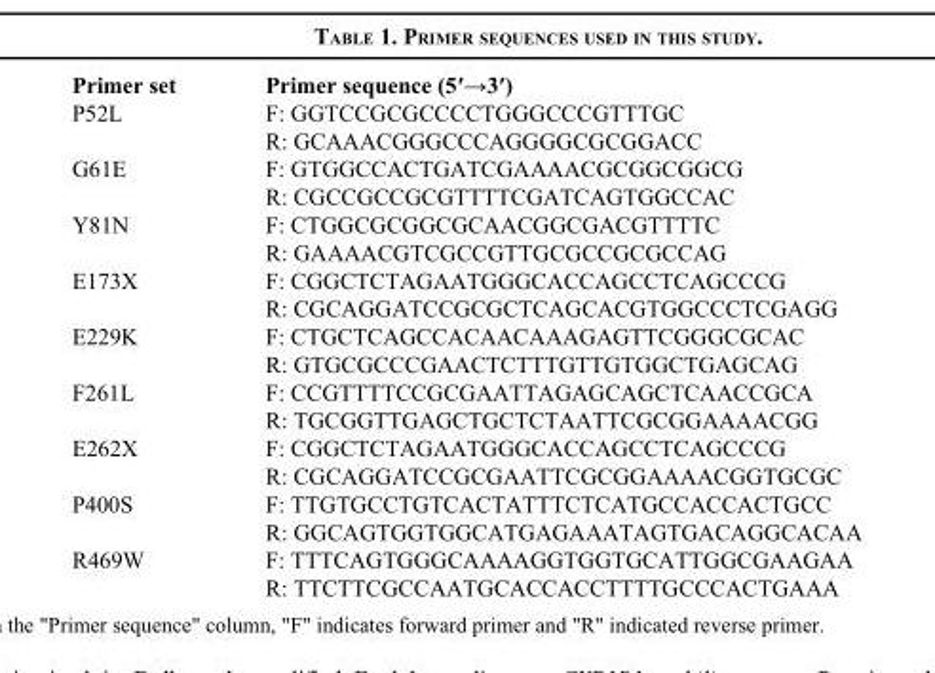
<table><thead><tr><td>Primer set</td><td>Primer sequence (5′→3′)</td></tr></thead><tbody><tr><td rowspan="2">P52L</td><td>F: GGTCCGCGCCCCTGGGCCCGTTTGC</td></tr><tr><td>R: GCAAACGGGCCCAGGGGCGCGGACC</td></tr><tr><td rowspan="2">G61E</td><td>F: GTGGCCACTGATCGAAAACGCGGCGGCG</td></tr><tr><td>R: CGCCGCCGCGTTTTCGATCAGTGGCCAC</td></tr><tr><td rowspan="2">Y81N</td><td>F: CTGGCGCGGCGCAACGGCGACGTTTTC</td></tr><tr><td>R: GAAAACGTCGCCGTTGCGCCGCGCCAG</td></tr><tr><td rowspan="2">E173X</td><td>F: CGGCTCTAGAATGGGCACCAGCCTCAGCCCG</td></tr><tr><td>R: CGCAGGATCCGCGCTCAGCACGTGGCCCTCGAGG</td></tr><tr><td rowspan="2">E229K</td><td>F: CTGCTCAGCCACAACAAAGAGTTCGGGCGCAC</td></tr><tr><td>R: GTGCGCCCGAACTCTTTGTTGTGGCTGAGCAG</td></tr><tr><td rowspan="2">F261L</td><td>F: CCGTTTTCCGCGAATTAGAGCAGCTCAACCGCA</td></tr><tr><td>R: TGCGGTTGAGCTGCTCTAATTCGCGGAAAACGG</td></tr><tr><td rowspan="2">E262X</td><td>F: CGGCTCTAGAATGGGCACCAGCCTCAGCCCG</td></tr><tr><td>R: CGCAGGATCCGCGAATTCGCGGAAAACGGTGCGC</td></tr><tr><td rowspan="2">P400S</td><td>F: TTGTGCCTGTCACTATTTCTCATGCCACCACTGCC</td></tr><tr><td>R: GGCAGTGGTGGCATGAGAAATAGTGACAGGCACAA</td></tr><tr><td rowspan="2">R469W</td><td>F: TTTCAGTGGGCAAAAGGTGGTGCATTGGCGAAGAA</td></tr><tr><td>R: TTCTTCGCCAATGCACCACCTTTTGCCCACTGAAA</td></tr></tbody></table>